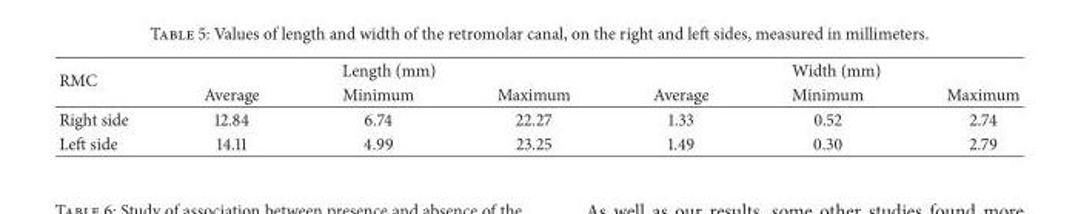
<table><thead><tr><td rowspan="2">RMC</td><td colspan="3">Length (mm)</td><td colspan="3">Width (mm)</td></tr><tr><td>Average</td><td>Minimum</td><td>Maximum</td><td>Average</td><td>Minimum</td><td>Maximum</td></tr></thead><tbody><tr><td>Right side</td><td>12.84</td><td>6.74</td><td>22.27</td><td>1.33</td><td>0.52</td><td>2.74</td></tr><tr><td>Left side</td><td>14.11</td><td>4.99</td><td>23.25</td><td>1.49</td><td>0.30</td><td>2.79</td></tr></tbody></table>